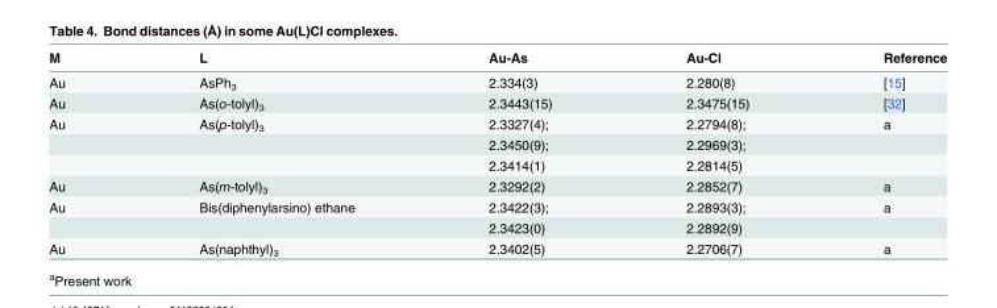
<table><thead><tr><td>M</td><td>L</td><td>Au-As</td><td>Au-Cl</td><td>Reference</td></tr></thead><tbody><tr><td>Au</td><td>AsPh<sub>3</sub></td><td>2.334(3)</td><td>2.280(8)</td><td>[15]</td></tr><tr><td>Au</td><td>As(o-tolyl)<sub>3</sub></td><td>2.3443(15)</td><td>2.3475(15)</td><td>[32]</td></tr><tr><td rowspan="3">Au</td><td>As(p-tolyl)<sub>3</sub></td><td>2.3327(4);</td><td>2.2794(8);</td><td>a</td></tr><tr><td></td><td>2.3450(9);</td><td>2.2969(3);</td><td></td></tr><tr><td></td><td>2.3414(1)</td><td>2.2814(5)</td><td></td></tr><tr><td>Au</td><td>As(m-tolyl)<sub>3</sub></td><td>2.3292(2)</td><td>2.2852(7)</td><td>a</td></tr><tr><td rowspan="2">Au</td><td>Bis(diphenylarsino) ethane</td><td>2.3422(3);</td><td>2.2893(3);</td><td>a</td></tr><tr><td></td><td>2.3423(0)</td><td>2.2892(9)</td><td></td></tr><tr><td>Au</td><td>As(naphthyl)<sub>3</sub></td><td>2.3402(5)</td><td>2.2706(7)</td><td>a</td></tr></tbody></table>